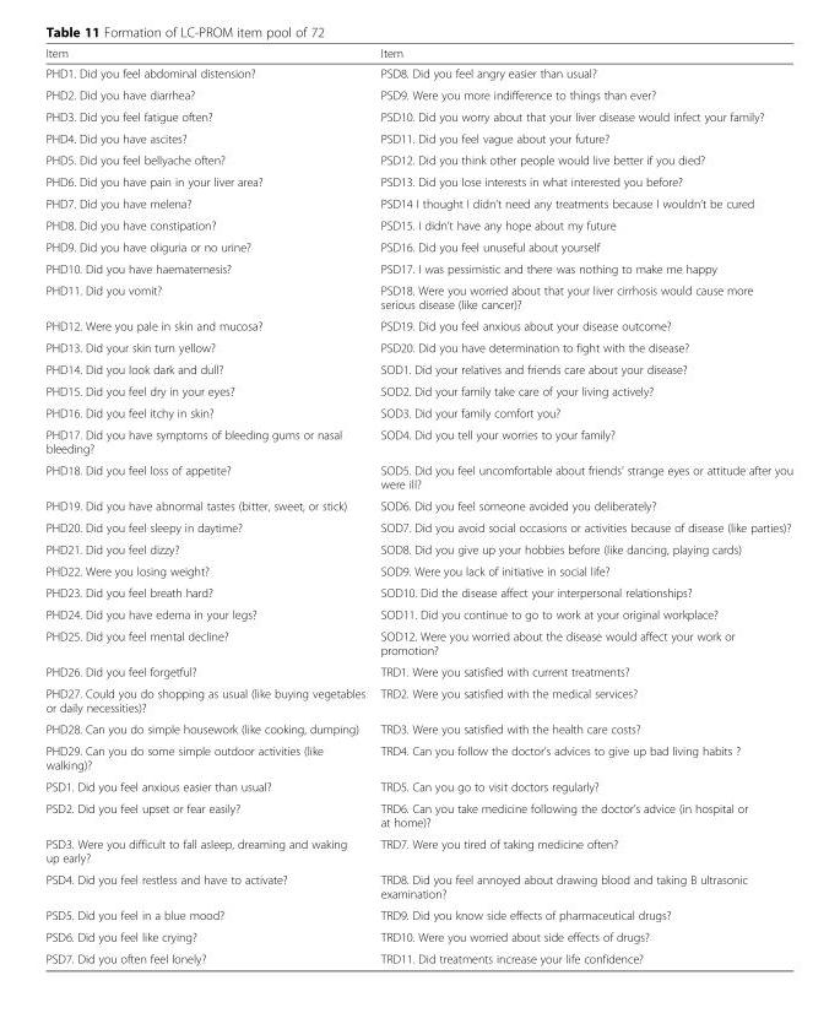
<table><thead><tr><td>Item</td><td>Item</td></tr></thead><tbody><tr><td>PHD1. Did you feel abdominal distension?</td><td>PSD8. Did you feel angry easier than usual?</td></tr><tr><td>PHD2. Did you have diarrhea?</td><td>PSD9. Were you more indifference to things than ever?</td></tr><tr><td>PHD3. Did you feel fatigue often?</td><td>PSD10. Did you worry about that your liver disease would infect your family?</td></tr><tr><td>PHD4. Did you have ascites?</td><td>PSD11. Did you feel vague about your future?</td></tr><tr><td>PHD5. Did you feel bellyache often?</td><td>PSD12. Did you think other people would live better if you died?</td></tr><tr><td>PHD6. Did you have pain in your liver area?</td><td>PSD13. Did you lose interests in what interested you before?</td></tr><tr><td>PHD7. Did you have melena?</td><td>PSD14 I thought I didn’t need any treatments because I wouldn’t be cured</td></tr><tr><td>PHD8. Did you have constipation?</td><td>PSD15. I didn’t have any hope about my future</td></tr><tr><td>PHD9. Did you have oliguria or no urine?</td><td>PSD16. Did you feel unuseful about yourself</td></tr><tr><td>PHD10. Did you have haematemesis?</td><td>PSD17. I was pessimistic and there was nothing to make me happy</td></tr><tr><td>PHD11. Did you vomit?</td><td>PSD18. Were you worried about that your liver cirrhosis would cause more serious disease (like cancer)?</td></tr><tr><td>PHD12. Were you pale in skin and mucosa?</td><td>PSD19. Did you feel anxious about your disease outcome?</td></tr><tr><td>PHD13. Did your skin turn yellow?</td><td>PSD20. Did you have determination to fight with the disease?</td></tr><tr><td>PHD14. Did you look dark and dull?</td><td>SOD1. Did your relatives and friends care about your disease?</td></tr><tr><td>PHD15. Did you feel dry in your eyes?</td><td>SOD2. Did your family take care of your living actively?</td></tr><tr><td>PHD16. Did you feel itchy in skin?</td><td>SOD3. Did your family comfort you?</td></tr><tr><td>PHD17. Did you have symptoms of bleeding gums or nasal bleeding?</td><td>SOD4. Did you tell your worries to your family?</td></tr><tr><td>PHD18. Did you feel loss of appetite?</td><td>SOD5. Did you feel uncomfortable about friends’ strange eyes or attitude after you were ill?</td></tr><tr><td>PHD19. Did you have abnormal tastes (bitter, sweet, or stick)</td><td>SOD6. Did you feel someone avoided you deliberately?</td></tr><tr><td>PHD20. Did you feel sleepy in daytime?</td><td>SOD7. Did you avoid social occasions or activities because of disease (like parties)?</td></tr><tr><td>PHD21. Did you feel dizzy?</td><td>SOD8. Did you give up your hobbies before (like dancing, playing cards)</td></tr><tr><td>PHD22. Were you losing weight?</td><td>SOD9. Were you lack of initiative in social life?</td></tr><tr><td>PHD23. Did you feel breath hard?</td><td>SOD10. Did the disease affect your interpersonal relationships?</td></tr><tr><td>PHD24. Did you have edema in your legs?</td><td>SOD11. Did you continue to go to work at your original workplace?</td></tr><tr><td>PHD25. Did you feel mental decline?</td><td>SOD12. Were you worried about the disease would affect your work or promotion?</td></tr><tr><td>PHD26. Did you feel forgetful?</td><td>TRD1. Were you satisfied with current treatments?</td></tr><tr><td>PHD27. Could you do shopping as usual (like buying vegetables or daily necessities)?</td><td>TRD2. Were you satisfied with the medical services?</td></tr><tr><td>PHD28. Can you do simple housework (like cooking, dumping)</td><td>TRD3. Were you satisfied with the health care costs?</td></tr><tr><td>PHD29. Can you do some simple outdoor activities (like walking)?</td><td>TRD4. Can you follow the doctor’s advices to give up bad living habits ?</td></tr><tr><td>PSD1. Did you feel anxious easier than usual?</td><td>TRD5. Can you go to visit doctors regularly?</td></tr><tr><td>PSD2. Did you feel upset or fear easily?</td><td>TRD6. Can you take medicine following the doctor’s advice (in hospital or at home)?</td></tr><tr><td>PSD3. Were you difficult to fall asleep, dreaming and waking up early?</td><td>TRD7. Were you tired of taking medicine often?</td></tr><tr><td>PSD4. Did you feel restless and have to activate?</td><td>TRD8. Did you feel annoyed about drawing blood and taking B ultrasonic examination?</td></tr><tr><td>PSD5. Did you feel in a blue mood?</td><td>TRD9. Did you know side effects of pharmaceutical drugs?</td></tr><tr><td>PSD6. Did you feel like crying?</td><td>TRD10. Were you worried about side effects of drugs?</td></tr><tr><td>PSD7. Did you often feel lonely?</td><td>TRD11. Did treatments increase your life confidence?</td></tr></tbody></table>